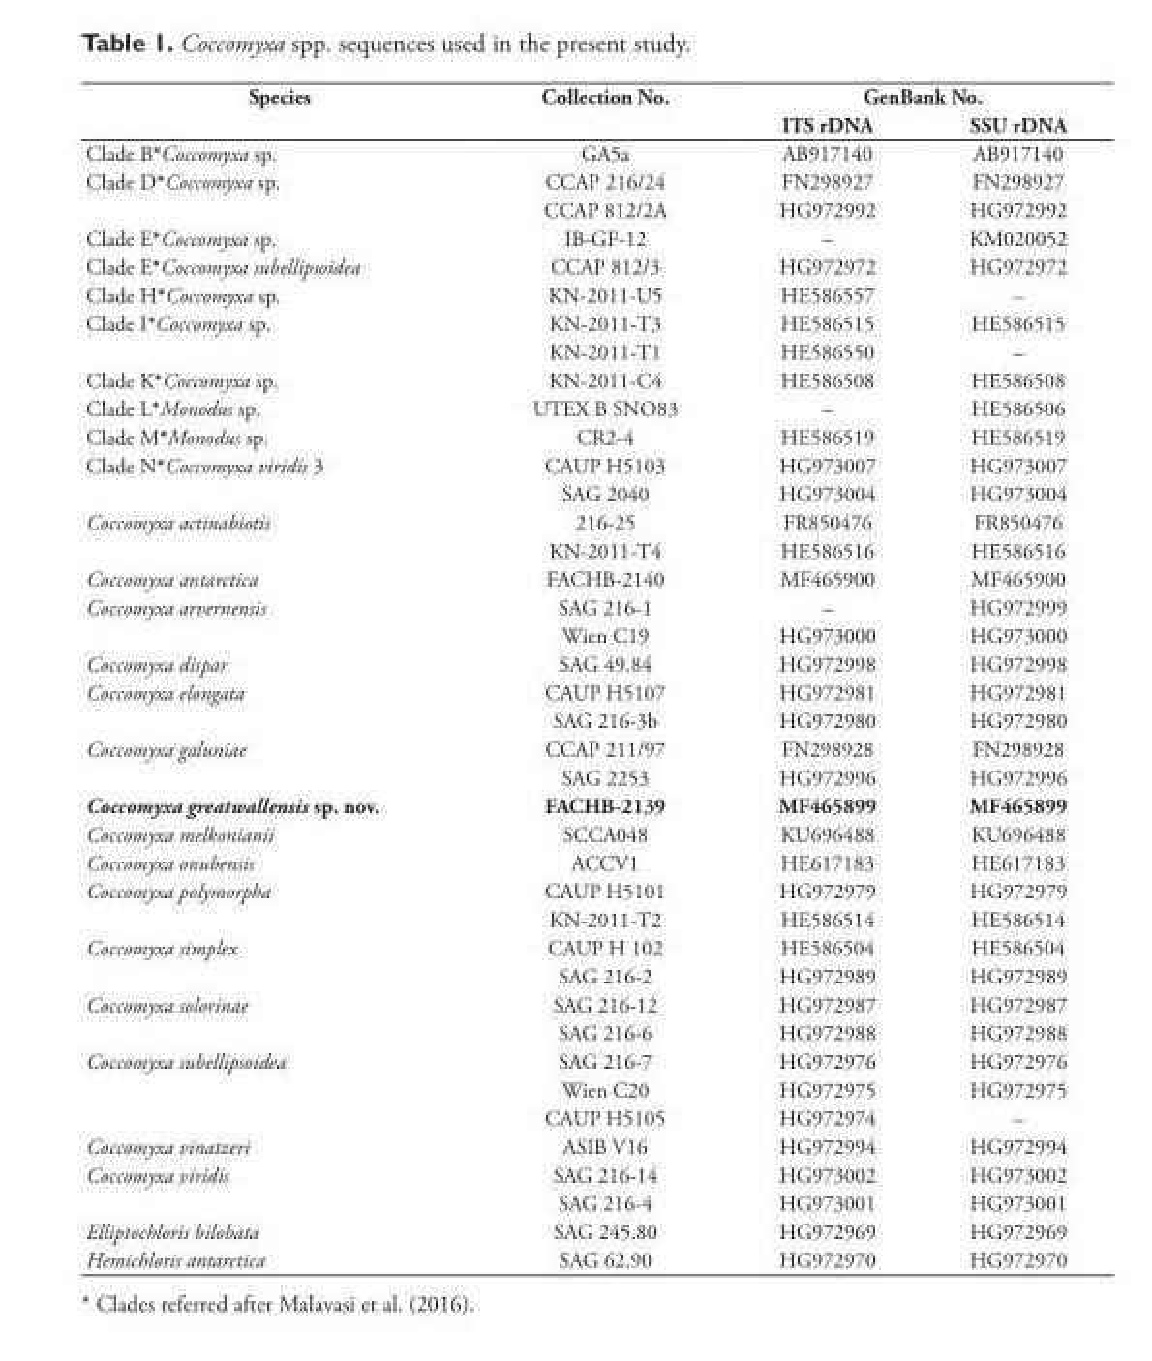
<table><thead><tr><td rowspan="2">Species</td><td rowspan="2">Collection No.</td><td colspan="2">GenBank No.</td></tr><tr><td>ITS rDNA</td><td>SSU rDNA</td></tr></thead><tbody><tr><td>Clade B*Coccomyxa sp.</td><td>GA5a</td><td>AB917140</td><td>AB917140</td></tr><tr><td rowspan="2">Clade D*Coccomyxa sp.</td><td>CCAP 216/24</td><td>FN298927</td><td>FN298927</td></tr><tr><td>CCAP 812/2A</td><td>HG972992</td><td>HG972992</td></tr><tr><td>Clade E*Coccomyxa sp.</td><td>IB-GF-12</td><td>–</td><td>KM020052</td></tr><tr><td>Clade E*Coccomyxa subellipsoidea</td><td>CCAP 812/3</td><td>HG972972</td><td>HG972972</td></tr><tr><td>Clade H*Coccomyxa sp.</td><td>KN-2011-U5</td><td>HE586557</td><td>–</td></tr><tr><td rowspan="2">Clade I*Coccomyxa sp.</td><td>KN-2011-T3</td><td>HE586515</td><td>HE586515</td></tr><tr><td>KN-2011-T1</td><td>HE586550</td><td>–</td></tr><tr><td>Clade K*Coccomyxa sp.</td><td>KN-2011-C4</td><td>HE586508</td><td>HE586508</td></tr><tr><td>Clade L*Monodus sp.</td><td>UTEX B SNO83</td><td>–</td><td>HE586506</td></tr><tr><td>Clade M*Monodus sp.</td><td>CR2-4</td><td>HE586519</td><td>HE586519</td></tr><tr><td rowspan="2">Clade N*Coccomyxa viridis 3</td><td>CAUP H5103</td><td>HG973007</td><td>HG973007</td></tr><tr><td>SAG 2040</td><td>HG973004</td><td>HG973004</td></tr><tr><td rowspan="2">Coccomyxa actinabiotis</td><td>216-25</td><td>FR850476</td><td>FR850476</td></tr><tr><td>KN-2011-T4</td><td>HE586516</td><td>HE586516</td></tr><tr><td>Coccomyxa antarctica</td><td>FACHB-2140</td><td>MF465900</td><td>MF465900</td></tr><tr><td rowspan="2">Coccomyxa arvernensis</td><td>SAG 216-1</td><td>–</td><td>HG972999</td></tr><tr><td>Wien C19</td><td>HG973000</td><td>HG973000</td></tr><tr><td>Coccomyxa dispar</td><td>SAG 49.84</td><td>HG972998</td><td>HG972998</td></tr><tr><td rowspan="2">Coccomyxa elongata</td><td>CAUP H5107</td><td>HG972981</td><td>HG972981</td></tr><tr><td>SAG 216-3b</td><td>HG972980</td><td>HG972980</td></tr><tr><td rowspan="2">Coccomyxa galuniae</td><td>CCAP 211/97</td><td>FN298928</td><td>FN298928</td></tr><tr><td>SAG 2253</td><td>HG972996</td><td>HG972996</td></tr><tr><td>Coccomyxa greatwallensis sp. nov.</td><td>FACHB-2139</td><td>MF465899</td><td>MF465899</td></tr><tr><td>Coccomyxa melkonianii</td><td>SCCA048</td><td>KU696488</td><td>KU696488</td></tr><tr><td>Coccomyxa onubensis</td><td>ACCV1</td><td>HE617183</td><td>HE617183</td></tr><tr><td rowspan="2">Coccomyxa polymorpha</td><td>CAUP H5101</td><td>HG972979</td><td>HG972979</td></tr><tr><td>KN-2011-T2</td><td>HE586514</td><td>HE586514</td></tr><tr><td rowspan="2">Coccomyxa simplex</td><td>CAUP H 102</td><td>HE586504</td><td>HE586504</td></tr><tr><td>SAG 216-2</td><td>HG972989</td><td>HG972989</td></tr><tr><td rowspan="2">Coccomyxa solorinae</td><td>SAG 216-12</td><td>HG972987</td><td>HG972987</td></tr><tr><td>SAG 216-6</td><td>HG972988</td><td>HG972988</td></tr><tr><td rowspan="3">Coccomyxa subellipsoidea</td><td>SAG 216-7</td><td>HG972976</td><td>HG972976</td></tr><tr><td>Wien C20</td><td>HG972975</td><td>HG972975</td></tr><tr><td>CAUP H5105</td><td>HG972974</td><td>–</td></tr><tr><td>Coccomyxa vinatzeri</td><td>ASIB V16</td><td>HG972994</td><td>HG972994</td></tr><tr><td rowspan="2">Coccomyxa viridis</td><td>SAG 216-14</td><td>HG973002</td><td>HG973002</td></tr><tr><td>SAG 216-4</td><td>HG973001</td><td>HG973001</td></tr><tr><td>Elliptochloris bilobata</td><td>SAG 245.80</td><td>HG972969</td><td>HG972969</td></tr><tr><td>Hemichloris antarctica</td><td>SAG 62.90</td><td>HG972970</td><td>HG972970</td></tr></tbody></table>